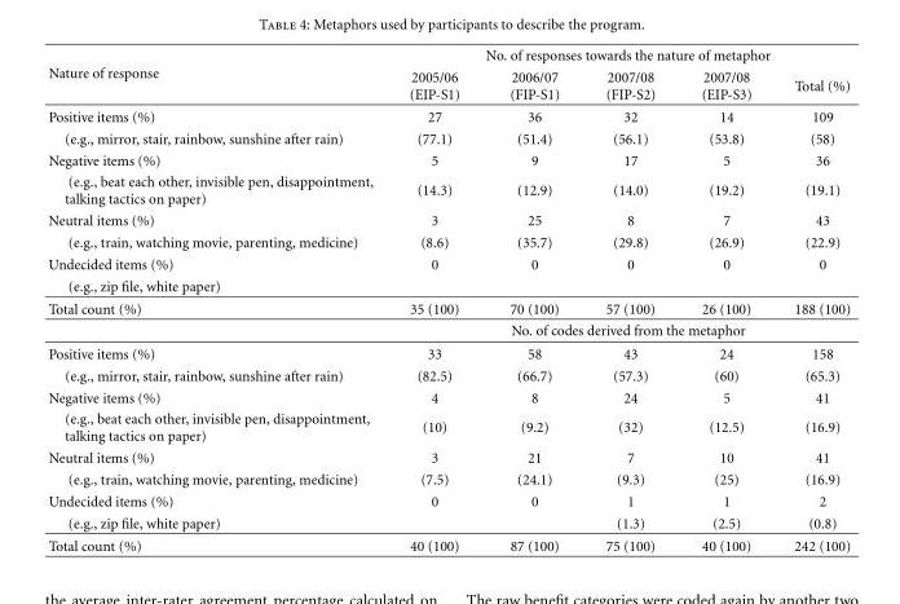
<table><tbody><tr><td rowspan="2">Nature of response</td><td colspan="5">No. of responses towards the nature of metaphor</td></tr><tr><td>2005/06 (EIP-S1)</td><td>2006/07 (FIP-S1)</td><td>2007/08 (FIP-S2)</td><td>2007/08 (EIP-S3)</td><td>Total (%)</td></tr><tr><td>Positive items (%)</td><td>27</td><td>36</td><td>32</td><td>14</td><td>109</td></tr><tr><td>(e.g., mirror, stair, rainbow, sunshine after rain)</td><td>(77.1)</td><td>(51.4)</td><td>(56.1)</td><td>(53.8)</td><td>(58)</td></tr><tr><td>Negative items (%)</td><td>5</td><td>9</td><td>17</td><td>5</td><td>36</td></tr><tr><td>(e.g., beat each other, invisible pen, disappointment, talking tactics on paper)</td><td>(14.3)</td><td>(12.9)</td><td>(14.0)</td><td>(19.2)</td><td>(19.1)</td></tr><tr><td>Neutral items (%)</td><td>3</td><td>25</td><td>8</td><td>7</td><td>43</td></tr><tr><td>(e.g., train, watching movie, parenting, medicine)</td><td>(8.6)</td><td>(35.7)</td><td>(29.8)</td><td>(26.9)</td><td>(22.9)</td></tr><tr><td>Undecided items (%)</td><td>0</td><td>0</td><td>0</td><td>0</td><td>0</td></tr><tr><td colspan="6">(e.g., zip file, white paper)</td></tr><tr><td rowspan="2">Total count (%)</td><td>35 (100)</td><td>70 (100)</td><td>57 (100)</td><td>26 (100)</td><td>188 (100)</td></tr><tr><td colspan="5">No. of codes derived from the metaphor</td></tr><tr><td>Positive items (%)</td><td>33</td><td>58</td><td>43</td><td>24</td><td>158</td></tr><tr><td>(e.g., mirror, stair, rainbow, sunshine after rain)</td><td>(82.5)</td><td>(66.7)</td><td>(57.3)</td><td>(60)</td><td>(65.3)</td></tr><tr><td>Negative items (%)</td><td>4</td><td>8</td><td>24</td><td>5</td><td>41</td></tr><tr><td>(e.g., beat each other, invisible pen, disappointment, talking tactics on paper)</td><td>(10)</td><td>(9.2)</td><td>(32)</td><td>(12.5)</td><td>(16.9)</td></tr><tr><td>Neutral items (%)</td><td>3</td><td>21</td><td>7</td><td>10</td><td>41</td></tr><tr><td>(e.g., train, watching movie, parenting, medicine)</td><td>(7.5)</td><td>(24.1)</td><td>(9.3)</td><td>(25)</td><td>(16.9)</td></tr><tr><td>Undecided items (%)</td><td>0</td><td>0</td><td>1</td><td>1</td><td>2</td></tr><tr><td>(e.g., zip file, white paper)</td><td></td><td></td><td>(1.3)</td><td>(2.5)</td><td>(0.8)</td></tr><tr><td>Total count (%)</td><td>40 (100)</td><td>87 (100)</td><td>75 (100)</td><td>40 (100)</td><td>242 (100)</td></tr></tbody></table>